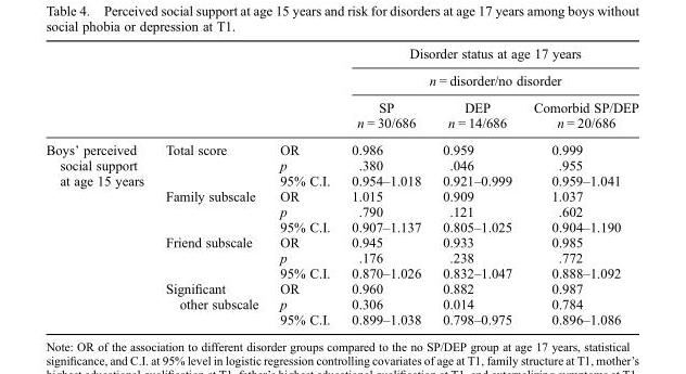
<table><thead><tr><td rowspan="4"></td><td rowspan="4"></td><td rowspan="4"></td><td rowspan="2" colspan="3">Disorder status at age 17 years n = disorder/no disorder</td></tr><tr></tr><tr><td rowspan="2">SP n = 30/686</td><td rowspan="2">DEP n = 14/686</td><td rowspan="2">Comorbid SP/DEP n = 20/686</td></tr><tr></tr></thead><tbody><tr><td rowspan="12">Boys’ perceived social support at age 15 years</td><td rowspan="3">Total score</td><td>OR</td><td>0.986</td><td>0.959</td><td>0.999</td></tr><tr><td>p</td><td>.380</td><td>.046</td><td>.955</td></tr><tr><td>95% C.I.</td><td>0.954–1.018</td><td>0.921–0.999</td><td>0.959–1.041</td></tr><tr><td rowspan="3">Family subscale</td><td>OR</td><td>1.015</td><td>0.909</td><td>1.037</td></tr><tr><td>p</td><td>.790</td><td>.121</td><td>.602</td></tr><tr><td>95% C.I.</td><td>0.907–1.137</td><td>0.805–1.025</td><td>0.904–1.190</td></tr><tr><td rowspan="3">Friend subscale</td><td>OR</td><td>0.945</td><td>0.933</td><td>0.985</td></tr><tr><td>p</td><td>.176</td><td>.238</td><td>.772</td></tr><tr><td>95% C.I.</td><td>0.870–1.026</td><td>0.832–1.047</td><td>0.888–1.092</td></tr><tr><td rowspan="3">Significant other subscale</td><td>OR</td><td>0.960</td><td>0.882</td><td>0.987</td></tr><tr><td>p</td><td>0.306</td><td>0.014</td><td>0.784</td></tr><tr><td>95% C.I.</td><td>0.899–1.038</td><td>0.798–0.975</td><td>0.896–1.086</td></tr></tbody></table>